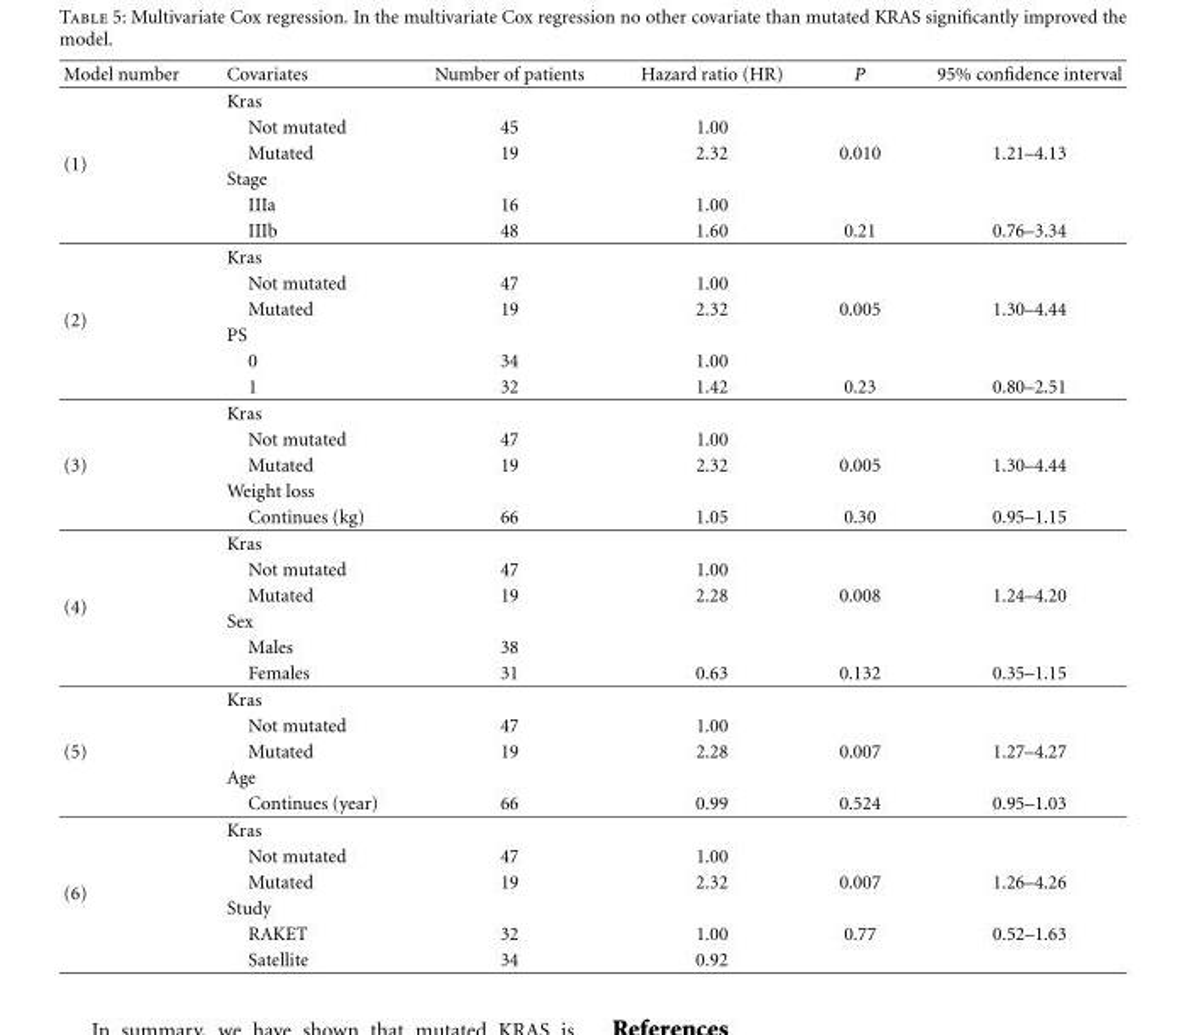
<table><thead><tr><td>Model number</td><td>Covariates</td><td>Number of patients</td><td>Hazard ratio (HR)</td><td>P</td><td>95% confidence interval</td></tr></thead><tbody><tr><td></td><td>Kras</td><td></td><td></td><td></td><td></td></tr><tr><td></td><td>Not mutated</td><td>45</td><td>1.00</td><td></td><td></td></tr><tr><td rowspan="6">(1)</td><td>Mutated</td><td>19</td><td>2.32</td><td>0.010</td><td>1.21–4.13</td></tr><tr><td>Stage</td><td></td><td></td><td></td><td></td></tr><tr><td>IIIa</td><td>16</td><td>1.00</td><td></td><td></td></tr><tr><td>IIIb</td><td>48</td><td>1.60</td><td>0.21</td><td>0.76–3.34</td></tr><tr><td>Kras</td><td></td><td></td><td></td><td></td></tr><tr><td>Not mutated</td><td>47</td><td>1.00</td><td></td><td></td></tr><tr><td rowspan="6">(2)</td><td>Mutated</td><td>19</td><td>2.32</td><td>0.005</td><td>1.30–4.44</td></tr><tr><td>PS</td><td></td><td></td><td></td><td></td></tr><tr><td>0</td><td>34</td><td>1.00</td><td></td><td></td></tr><tr><td>1</td><td>32</td><td>1.42</td><td>0.23</td><td>0.80–2.51</td></tr><tr><td>Kras</td><td></td><td></td><td></td><td></td></tr><tr><td>Not mutated</td><td>47</td><td>1.00</td><td></td><td></td></tr><tr><td rowspan="5">(3)</td><td>Mutated</td><td>19</td><td>2.32</td><td>0.005</td><td>1.30–4.44</td></tr><tr><td>Weight loss</td><td></td><td></td><td></td><td></td></tr><tr><td>Continues (kg)</td><td>66</td><td>1.05</td><td>0.30</td><td>0.95–1.15</td></tr><tr><td>Kras</td><td></td><td></td><td></td><td></td></tr><tr><td>Not mutated</td><td>47</td><td>1.00</td><td></td><td></td></tr><tr><td rowspan="6">(4)</td><td>Mutated</td><td>19</td><td>2.28</td><td>0.008</td><td>1.24–4.20</td></tr><tr><td>Sex</td><td></td><td></td><td></td><td></td></tr><tr><td>Males</td><td>38</td><td></td><td></td><td></td></tr><tr><td>Females</td><td>31</td><td>0.63</td><td>0.132</td><td>0.35–1.15</td></tr><tr><td>Kras</td><td></td><td></td><td></td><td></td></tr><tr><td>Not mutated</td><td>47</td><td>1.00</td><td></td><td></td></tr><tr><td rowspan="5">(5)</td><td>Mutated</td><td>19</td><td>2.28</td><td>0.007</td><td>1.27–4.27</td></tr><tr><td>Age</td><td></td><td></td><td></td><td></td></tr><tr><td>Continues (year)</td><td>66</td><td>0.99</td><td>0.524</td><td>0.95–1.03</td></tr><tr><td>Kras</td><td></td><td></td><td></td><td></td></tr><tr><td>Not mutated</td><td>47</td><td>1.00</td><td></td><td></td></tr><tr><td rowspan="4">(6)</td><td>Mutated</td><td>19</td><td>2.32</td><td>0.007</td><td>1.26–4.26</td></tr><tr><td>Study</td><td></td><td></td><td></td><td></td></tr><tr><td>RAKET</td><td>32</td><td>1.00</td><td>0.77</td><td>0.52–1.63</td></tr><tr><td>Satellite</td><td>34</td><td>0.92</td><td></td><td></td></tr></tbody></table>